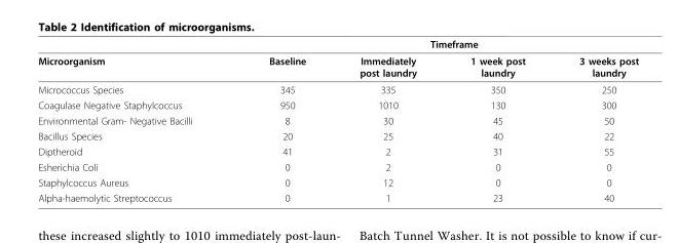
<table><thead><tr><td rowspan="2">Microorganism</td><td colspan="4">Timeframe</td></tr><tr><td>Baseline</td><td>Immediately post laundry</td><td>1 week post laundry</td><td>3 weeks post laundry</td></tr></thead><tbody><tr><td>Micrococcus Species</td><td>345</td><td>335</td><td>350</td><td>250</td></tr><tr><td>Coagulase Negative Staphylcoccus</td><td>950</td><td>1010</td><td>130</td><td>300</td></tr><tr><td>Environmental Gram- Negative Bacilli</td><td>8</td><td>30</td><td>45</td><td>50</td></tr><tr><td>Bacillus Species</td><td>20</td><td>25</td><td>40</td><td>22</td></tr><tr><td>Diptheroid</td><td>41</td><td>2</td><td>31</td><td>55</td></tr><tr><td>Esherichia Coli</td><td>0</td><td>2</td><td>0</td><td>0</td></tr><tr><td>Staphylcoccus Aureus</td><td>0</td><td>12</td><td>0</td><td>0</td></tr><tr><td>Alpha-haemolytic Streptococcus</td><td>0</td><td>1</td><td>23</td><td>40</td></tr></tbody></table>